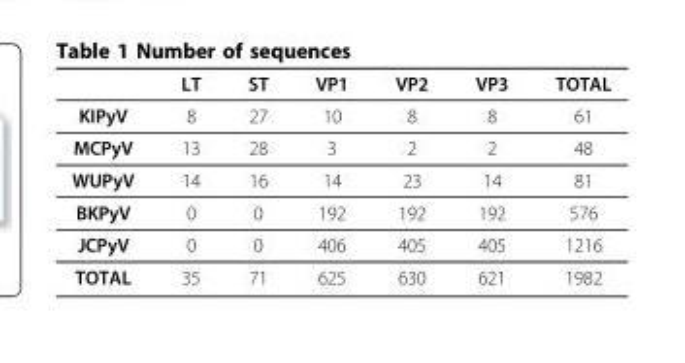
<table><thead><tr><td></td><td>LT</td><td>ST</td><td>VP1</td><td>VP2</td><td>VP3</td><td>TOTAL</td></tr></thead><tbody><tr><td>KIPyV</td><td>8</td><td>27</td><td>10</td><td>8</td><td>8</td><td>61</td></tr><tr><td>MCPyV</td><td>13</td><td>28</td><td>3</td><td>2</td><td>2</td><td>48</td></tr><tr><td>WUPyV</td><td>14</td><td>16</td><td>14</td><td>23</td><td>14</td><td>81</td></tr><tr><td>BKPyV</td><td>0</td><td>0</td><td>192</td><td>192</td><td>192</td><td>576</td></tr><tr><td>JCPyV</td><td>0</td><td>0</td><td>406</td><td>405</td><td>405</td><td>1216</td></tr><tr><td>TOTAL</td><td>35</td><td>71</td><td>625</td><td>630</td><td>621</td><td>1982</td></tr></tbody></table>